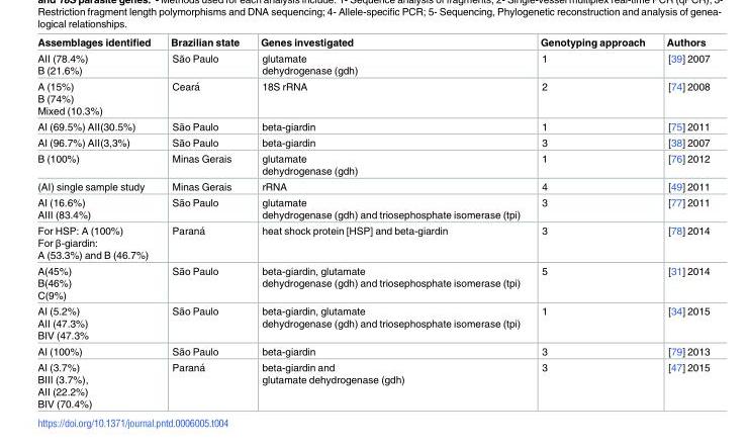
<table><thead><tr><td>Assemblages identified</td><td>Brazilian state</td><td>Genes investigated</td><td>Genotyping approach</td><td>Authors</td></tr></thead><tbody><tr><td>AII (78.4%) B (21.6%)</td><td>São Paulo</td><td>glutamate dehydrogenase (gdh)</td><td>1</td><td>[39] 2007</td></tr><tr><td>A (15%) B (74%) Mixed (10.3%)</td><td>Ceara´</td><td>18S rRNA</td><td>2</td><td>[74] 2008</td></tr><tr><td>AI (69.5%) AII(30.5%)</td><td>São Paulo</td><td>beta-giardin</td><td>1</td><td>[75] 2011</td></tr><tr><td>AI (96.7%) AII(3,3%)</td><td>São Paulo</td><td>beta-giardin</td><td>3</td><td>[38] 2007</td></tr><tr><td>B (100%)</td><td>Minas Gerais</td><td>glutamate dehydrogenase (gdh)</td><td>1</td><td>[76] 2012</td></tr><tr><td>(AI) single sample study</td><td>Minas Gerais</td><td>rRNA</td><td>4</td><td>[49] 2011</td></tr><tr><td>AI (16.6%) AIII (83.4%)</td><td>São Paulo</td><td>glutamate dehydrogenase (gdh) and triosephosphate isomerase (tpi)</td><td>3</td><td>[77] 2011</td></tr><tr><td>For HSP: A (100%) For β-giardin: A (53.3%) and B (46.7%)</td><td>Parana´</td><td>heat shock protein [HSP] and beta-giardin</td><td>3</td><td>[78] 2014</td></tr><tr><td>A(45%) B(46%) C(9%)</td><td>São Paulo</td><td>beta-giardin, glutamate dehydrogenase (gdh) and triosephosphate isomerase (tpi)</td><td>5</td><td>[31] 2014</td></tr><tr><td>AI (5.2%) AII (47.3%) BIV (47.3%</td><td>São Paulo</td><td>beta-giardin, glutamate dehydrogenase (gdh) and triosephosphate isomerase (tpi)</td><td>1</td><td>[34] 2015</td></tr><tr><td>AI (100%)</td><td>São Paulo</td><td>beta-giardin</td><td>3</td><td>[79] 2013</td></tr><tr><td>AI (3.7%) BIII (3.7%), AII (22.2%) BIV (70.4%)</td><td>Parana´</td><td>beta-giardin and glutamate dehydrogenase (gdh)</td><td>3</td><td>[47] 2015</td></tr></tbody></table>